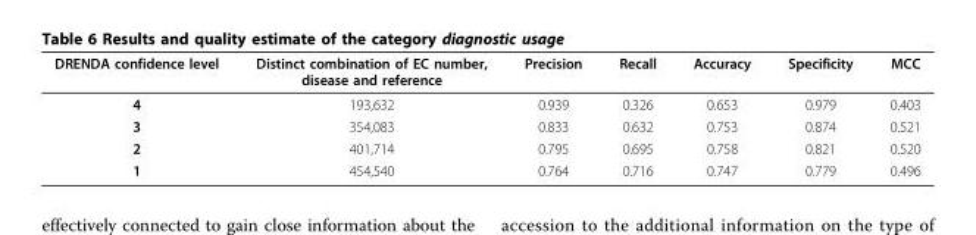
<table><thead><tr><td>DRENDA confidence level</td><td>Distinct combination of EC number, disease and reference</td><td>Precision</td><td>Recall</td><td>Accuracy</td><td>Specificity</td><td>MCC</td></tr></thead><tbody><tr><td>4</td><td>193,632</td><td>0.939</td><td>0.326</td><td>0.653</td><td>0.979</td><td>0.403</td></tr><tr><td>3</td><td>354,083</td><td>0.833</td><td>0.632</td><td>0.753</td><td>0.874</td><td>0.521</td></tr><tr><td>2</td><td>401,714</td><td>0.795</td><td>0.695</td><td>0.758</td><td>0.821</td><td>0.520</td></tr><tr><td>1</td><td>454,540</td><td>0.764</td><td>0.716</td><td>0.747</td><td>0.779</td><td>0.496</td></tr></tbody></table>